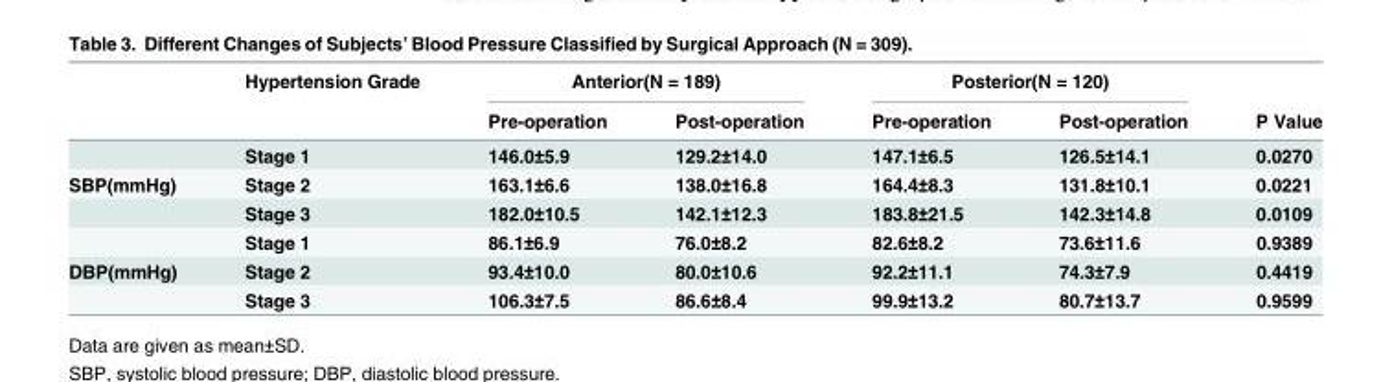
<table><thead><tr><td rowspan="2"></td><td rowspan="2">Hypertension Grade</td><td colspan="2">Anterior(N = 189)</td><td colspan="2">Posterior(N = 120)</td><td rowspan="2">P Value</td></tr><tr><td>Pre-operation</td><td>Post-operation</td><td>Pre-operation</td><td>Post-operation</td></tr></thead><tbody><tr><td></td><td>Stage 1</td><td>146.0±5.9</td><td>129.2±14.0</td><td>147.1±6.5</td><td>126.5±14.1</td><td>0.0270</td></tr><tr><td rowspan="3">SBP(mmHg)</td><td>Stage 2</td><td>163.1±6.6</td><td>138.0±16.8</td><td>164.4±8.3</td><td>131.8±10.1</td><td>0.0221</td></tr><tr><td>Stage 3</td><td>182.0±10.5</td><td>142.1±12.3</td><td>183.8±21.5</td><td>142.3±14.8</td><td>0.0109</td></tr><tr><td>Stage 1</td><td>86.1±6.9</td><td>76.0±8.2</td><td>82.6±8.2</td><td>73.6±11.6</td><td>0.9389</td></tr><tr><td rowspan="2">DBP(mmHg)</td><td>Stage 2</td><td>93.4±10.0</td><td>80.0±10.6</td><td>92.2±11.1</td><td>74.3±7.9</td><td>0.4419</td></tr><tr><td>Stage 3</td><td>106.3±7.5</td><td>86.6±8.4</td><td>99.9±13.2</td><td>80.7±13.7</td><td>0.9599</td></tr></tbody></table>